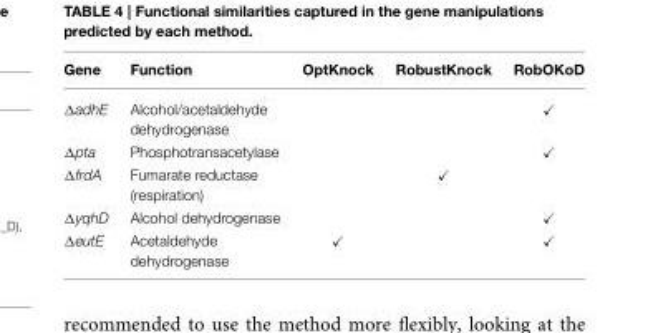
<table><thead><tr><td>Gene</td><td>Function</td><td>OptKnock</td><td>RobustKnock</td><td>RobOKoD</td></tr></thead><tbody><tr><td>ΔadhE</td><td>Alcohol/acetaldehyde dehydrogenase</td><td></td><td></td><td>✓</td></tr><tr><td>Δpta</td><td>Phosphotransacetylase</td><td></td><td></td><td>✓</td></tr><tr><td>ΔfrdA</td><td>Fumarate reductase (respiration)</td><td></td><td>✓</td><td></td></tr><tr><td>ΔyqhD</td><td>Alcohol dehydrogenase</td><td></td><td></td><td>✓</td></tr><tr><td>ΔeutE</td><td>Acetaldehyde dehydrogenase</td><td>✓</td><td></td><td>✓</td></tr></tbody></table>